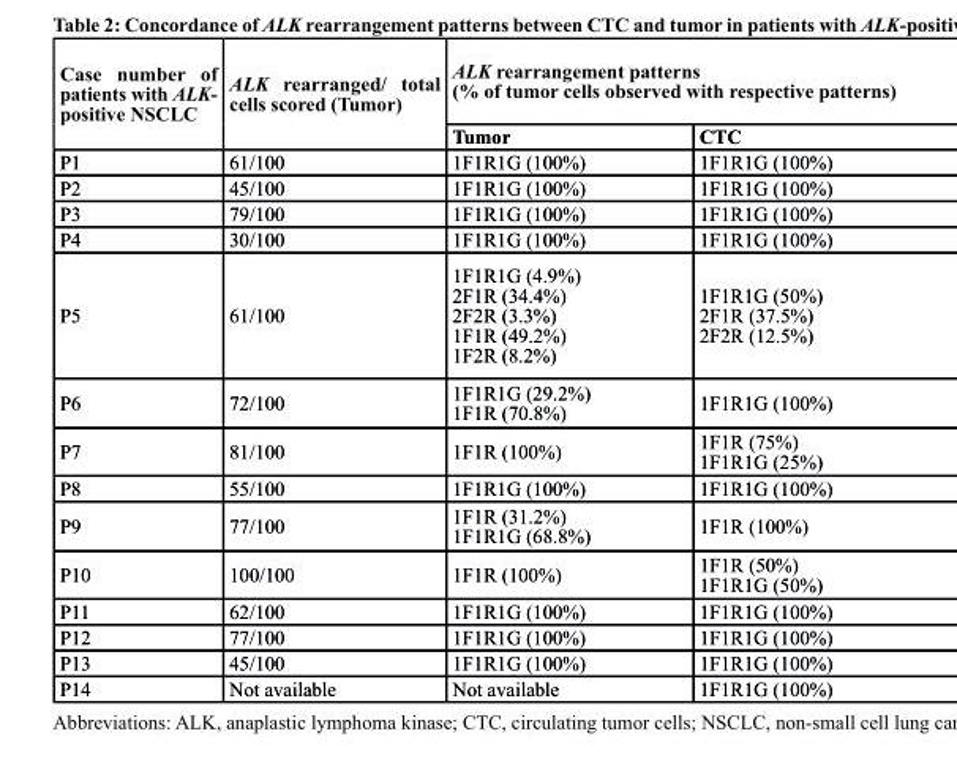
<table><thead><tr><td rowspan="2">case number of patients with ALK- positive nsclc</td><td rowspan="2">ALK rearranged/ total cells scored (tumor)</td><td colspan="2">ALK rearrangement patterns (% of tumor cells observed with respective patterns)</td></tr><tr><td>tumor</td><td>ctc</td></tr></thead><tbody><tr><td>P1</td><td>61/100</td><td>1F1R1G (100%)</td><td>1F1R1G (100%)</td></tr><tr><td>P2</td><td>45/100</td><td>1F1R1G (100%)</td><td>1F1R1G (100%)</td></tr><tr><td>P3</td><td>79/100</td><td>1F1R1G (100%)</td><td>1F1R1G (100%)</td></tr><tr><td>P4</td><td>30/100</td><td>1F1R1G (100%)</td><td>1F1R1G (100%)</td></tr><tr><td>P5</td><td>61/100</td><td>1F1R1G (4.9%) 2F1R (34.4%) 2F2R (3.3%) 1F1R (49.2%) 1F2R (8.2%)</td><td>1F1R1G (50%) 2F1R (37.5%) 2F2R (12.5%)</td></tr><tr><td>P6</td><td>72/100</td><td>1F1R1G (29.2%) 1F1R (70.8%)</td><td>1F1R1G (100%)</td></tr><tr><td>P7</td><td>81/100</td><td>1F1R (100%)</td><td>1F1R (75%) 1F1R1G (25%)</td></tr><tr><td>P8</td><td>55/100</td><td>1F1R1G (100%)</td><td>1F1R1G (100%)</td></tr><tr><td>P9</td><td>77/100</td><td>1F1R (31.2%) 1F1R1G (68.8%)</td><td>1F1R (100%)</td></tr><tr><td>P10</td><td>100/100</td><td>1F1R (100%)</td><td>1F1R (50%) 1F1R1G (50%)</td></tr><tr><td>P11</td><td>62/100</td><td>1F1R1G (100%)</td><td>1F1R1G (100%)</td></tr><tr><td>P12</td><td>77/100</td><td>1F1R1G (100%)</td><td>1F1R1G (100%)</td></tr><tr><td>P13</td><td>45/100</td><td>1F1R1G (100%)</td><td>1F1R1G (100%)</td></tr><tr><td>P14</td><td>Not available</td><td>Not available</td><td>1F1R1G (100%)</td></tr></tbody></table>